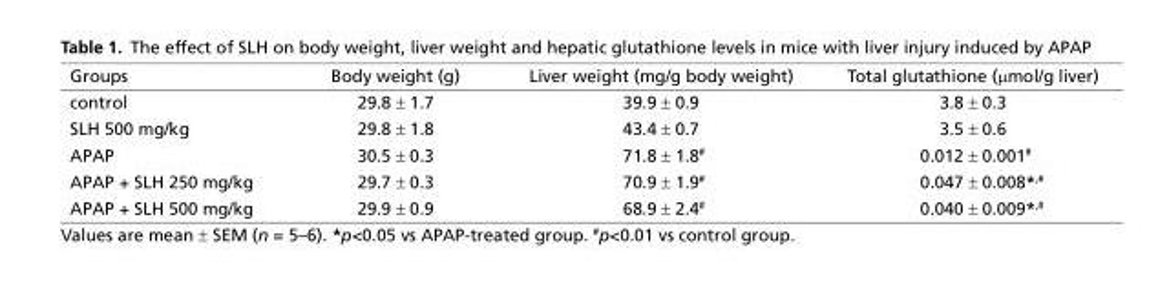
<table><thead><tr><td>Groups</td><td>Body weight (g)</td><td>Liver weight (mg/g body weight)</td><td>Total glutathione (μmol/g liver)</td></tr></thead><tbody><tr><td>control</td><td>29.8 ± 1.7</td><td>39.9 ± 0.9</td><td>3.8 ± 0.3</td></tr><tr><td>SLH 500 mg/kg</td><td>29.8 ± 1.8</td><td>43.4 ± 0.7</td><td>3.5 ± 0.6</td></tr><tr><td>APAP</td><td>30.5 ± 0.3</td><td>71.8 ± 1.8<sup>#</sup></td><td>0.012 ± 0.001<sup>#</sup></td></tr><tr><td>APAP + SLH 250 mg/kg</td><td>29.7 ± 0.3</td><td>70.9 ± 1.9<sup>#</sup></td><td>0.047 ± 0.008*<sup>,#</sup></td></tr><tr><td>APAP + SLH 500 mg/kg</td><td>29.9 ± 0.9</td><td>68.9 ± 2.4<sup>#</sup></td><td>0.040 ± 0.009*<sup>,#</sup></td></tr></tbody></table>